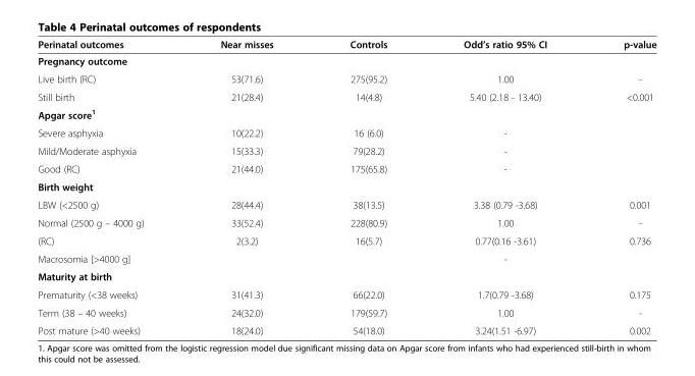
<table><thead><tr><td>Perinatal outcomes</td><td>Near misses</td><td>Controls</td><td>Odd’s ratio 95% CI</td><td>p-value</td></tr></thead><tbody><tr><td colspan="5">Pregnancy outcome</td></tr><tr><td>Live birth (RC)</td><td>53(71.6)</td><td>275(95.2)</td><td>1.00</td><td>-</td></tr><tr><td>Still birth</td><td>21(28.4)</td><td>14(4.8)</td><td>5.40 (2.18 - 13.40)</td><td>&lt;0.001</td></tr><tr><td colspan="5">Apgar score<sup>1</sup></td></tr><tr><td>Severe asphyxia</td><td>10(22.2)</td><td>16 (6.0)</td><td>-</td><td></td></tr><tr><td>Mild/Moderate asphyxia</td><td>15(33.3)</td><td>79(28.2)</td><td>-</td><td></td></tr><tr><td>Good (RC)</td><td>21(44.0)</td><td>175(65.8)</td><td>-</td><td></td></tr><tr><td colspan="5">Birth weight</td></tr><tr><td>LBW (&lt;2500 g)</td><td>28(44.4)</td><td>38(13.5)</td><td>3.38 (0.79 -3.68)</td><td>0.001</td></tr><tr><td>Normal (2500 g – 4000 g)</td><td>33(52.4)</td><td>228(80.9)</td><td>1.00</td><td>-</td></tr><tr><td>(RC)</td><td>2(3.2)</td><td>16(5.7)</td><td>0.77(0.16 -3.61)</td><td>0.736</td></tr><tr><td>Macrosomia [&gt;4000 g]</td><td></td><td></td><td>-</td><td></td></tr><tr><td colspan="5">Maturity at birth</td></tr><tr><td>Prematurity (&lt;38 weeks)</td><td>31(41.3)</td><td>66(22.0)</td><td>1.7(0.79 -3.68)</td><td>0.175</td></tr><tr><td>Term (38 – 40 weeks)</td><td>24(32.0)</td><td>179(59.7)</td><td>1.00</td><td>-</td></tr><tr><td>Post mature (&gt;40 weeks)</td><td>18(24.0)</td><td>54(18.0)</td><td>3.24(1.51 -6.97)</td><td>0.002</td></tr></tbody></table>